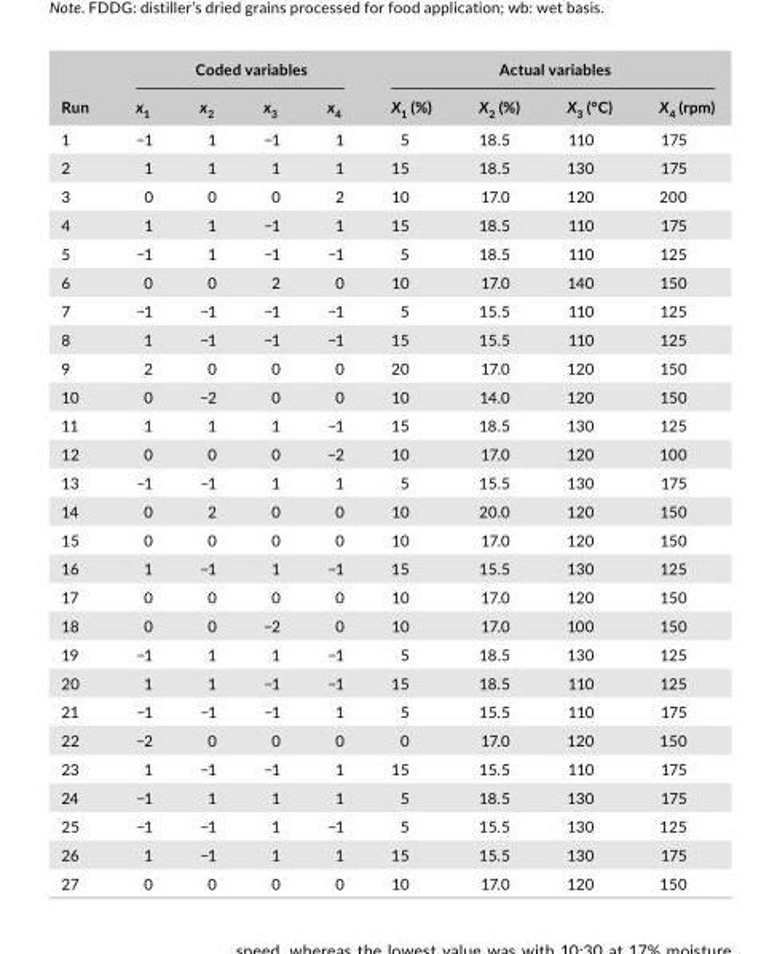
<table><thead><tr><td rowspan="2">Run</td><td colspan="4">Coded variables</td><td colspan="4">Actual variables</td></tr><tr><td>x<sub>1</sub></td><td>x<sub>2</sub></td><td>x<sub>3</sub></td><td>x<sub>4</sub></td><td>X<sub>1</sub> (%)</td><td>X<sub>2</sub> (%)</td><td>X<sub>3</sub> (°C)</td><td>X<sub>4</sub> (rpm)</td></tr></thead><tbody><tr><td>1</td><td>−1</td><td>1</td><td>−1</td><td>1</td><td>5</td><td>18.5</td><td>110</td><td>175</td></tr><tr><td>2</td><td>1</td><td>1</td><td>1</td><td>1</td><td>15</td><td>18.5</td><td>130</td><td>175</td></tr><tr><td>3</td><td>0</td><td>0</td><td>0</td><td>2</td><td>10</td><td>17.0</td><td>120</td><td>200</td></tr><tr><td>4</td><td>1</td><td>1</td><td>−1</td><td>1</td><td>15</td><td>18.5</td><td>110</td><td>175</td></tr><tr><td>5</td><td>−1</td><td>1</td><td>−1</td><td>−1</td><td>5</td><td>18.5</td><td>110</td><td>125</td></tr><tr><td>6</td><td>0</td><td>0</td><td>2</td><td>0</td><td>10</td><td>17.0</td><td>140</td><td>150</td></tr><tr><td>7</td><td>−1</td><td>−1</td><td>−1</td><td>−1</td><td>5</td><td>15.5</td><td>110</td><td>125</td></tr><tr><td>8</td><td>1</td><td>−1</td><td>−1</td><td>−1</td><td>15</td><td>15.5</td><td>110</td><td>125</td></tr><tr><td>9</td><td>2</td><td>0</td><td>0</td><td>0</td><td>20</td><td>17.0</td><td>120</td><td>150</td></tr><tr><td>10</td><td>0</td><td>−2</td><td>0</td><td>0</td><td>10</td><td>14.0</td><td>120</td><td>150</td></tr><tr><td>11</td><td>1</td><td>1</td><td>1</td><td>−1</td><td>15</td><td>18.5</td><td>130</td><td>125</td></tr><tr><td>12</td><td>0</td><td>0</td><td>0</td><td>−2</td><td>10</td><td>17.0</td><td>120</td><td>100</td></tr><tr><td>13</td><td>−1</td><td>−1</td><td>1</td><td>1</td><td>5</td><td>15.5</td><td>130</td><td>175</td></tr><tr><td>14</td><td>0</td><td>2</td><td>0</td><td>0</td><td>10</td><td>20.0</td><td>120</td><td>150</td></tr><tr><td>15</td><td>0</td><td>0</td><td>0</td><td>0</td><td>10</td><td>17.0</td><td>120</td><td>150</td></tr><tr><td>16</td><td>1</td><td>−1</td><td>1</td><td>−1</td><td>15</td><td>15.5</td><td>130</td><td>125</td></tr><tr><td>17</td><td>0</td><td>0</td><td>0</td><td>0</td><td>10</td><td>17.0</td><td>120</td><td>150</td></tr><tr><td>18</td><td>0</td><td>0</td><td>−2</td><td>0</td><td>10</td><td>17.0</td><td>100</td><td>150</td></tr><tr><td>19</td><td>−1</td><td>1</td><td>1</td><td>−1</td><td>5</td><td>18.5</td><td>130</td><td>125</td></tr><tr><td>20</td><td>1</td><td>1</td><td>−1</td><td>−1</td><td>15</td><td>18.5</td><td>110</td><td>125</td></tr><tr><td>21</td><td>−1</td><td>−1</td><td>−1</td><td>1</td><td>5</td><td>15.5</td><td>110</td><td>175</td></tr><tr><td>22</td><td>−2</td><td>0</td><td>0</td><td>0</td><td>0</td><td>17.0</td><td>120</td><td>150</td></tr><tr><td>23</td><td>1</td><td>−1</td><td>−1</td><td>1</td><td>15</td><td>15.5</td><td>110</td><td>175</td></tr><tr><td>24</td><td>−1</td><td>1</td><td>1</td><td>1</td><td>5</td><td>18.5</td><td>130</td><td>175</td></tr><tr><td>25</td><td>−1</td><td>−1</td><td>1</td><td>−1</td><td>5</td><td>15.5</td><td>130</td><td>125</td></tr><tr><td>26</td><td>1</td><td>−1</td><td>1</td><td>1</td><td>15</td><td>15.5</td><td>130</td><td>175</td></tr><tr><td>27</td><td>0</td><td>0</td><td>0</td><td>0</td><td>10</td><td>17.0</td><td>120</td><td>150</td></tr></tbody></table>